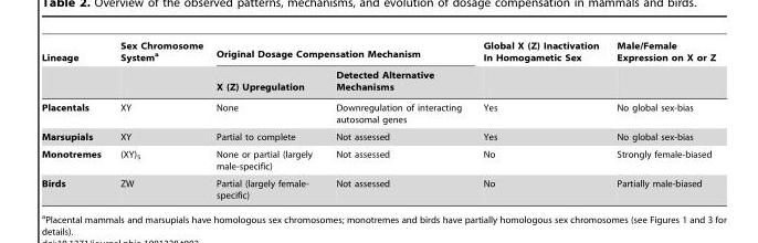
<table><thead><tr><td rowspan="2">Lineage</td><td rowspan="2">Sex Chromosome System<sup>a</sup></td><td colspan="2">Original Dosage Compensation Mechanism</td><td rowspan="2">Global X (Z) Inactivation In Homogametic Sex</td><td rowspan="2">Male/Female Expression on X or Z</td></tr><tr><td>X (Z) Upregulation</td><td>Detected Alternative Mechanisms</td></tr></thead><tbody><tr><td>Placentals</td><td>XY</td><td>None</td><td>Downregulation of interacting autosomal genes</td><td>Yes</td><td>No global sex-bias</td></tr><tr><td>Marsupials</td><td>XY</td><td>Partial to complete</td><td>Not assessed</td><td>Yes</td><td>No global sex-bias</td></tr><tr><td>Monotremes</td><td>(XY)<sub>5</sub></td><td>None or partial (largely male-specific)</td><td>Not assessed</td><td>No</td><td>Strongly female-biased</td></tr><tr><td>Birds</td><td>ZW</td><td>Partial (largely female- specific)</td><td>Not assessed</td><td>No</td><td>Partially male-biased</td></tr></tbody></table>